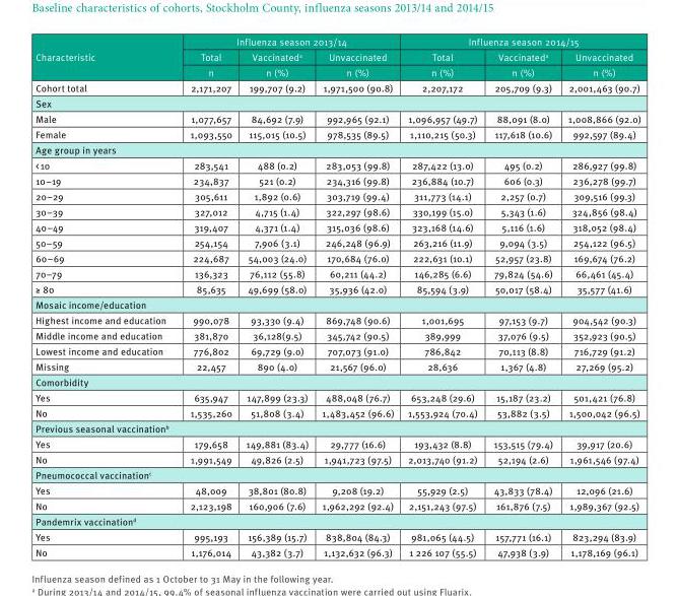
<table><thead><tr><td rowspan="3">Characteristic</td><td colspan="3">Influenza season 2013/14</td><td colspan="3">Influenza season 2014/15</td></tr><tr><td rowspan="2">Total n</td><td rowspan="2">Vaccinated<sup>a</sup> n (%)</td><td rowspan="2">Unvaccinated n (%)</td><td rowspan="2">Total n (%)</td><td rowspan="2">Vaccinated<sup>a</sup> n (%)</td><td rowspan="2">Unvaccinated n (%)</td></tr><tr></tr></thead><tbody><tr><td>Cohort total</td><td>2,171,207</td><td>199,707 (9.2)</td><td>1,971,500 (90.8)</td><td>2,207,172</td><td>205,709 (9.3)</td><td>2,001,463 (90.7)</td></tr><tr><td colspan="7">Sex</td></tr><tr><td>Male</td><td>1,077,657</td><td>84,692 (7.9)</td><td>992,965 (92.1)</td><td>1,096,957 (49.7)</td><td>88,091 (8.0)</td><td>1,008,866 (92.0)</td></tr><tr><td>Female</td><td>1,093,550</td><td>115,015 (10.5)</td><td>978,535 (89.5)</td><td>1,110,215 (50.3)</td><td>117,618 (10.6)</td><td>992,597 (89.4)</td></tr><tr><td colspan="7">Age group in years</td></tr><tr><td>&lt; 10</td><td>283,541</td><td>488 (0.2)</td><td>283,053 (99.8)</td><td>287,422 (13.0)</td><td>495 (0.2)</td><td>286,927 (99.8)</td></tr><tr><td>10–19</td><td>234,837</td><td>521 (0.2)</td><td>234,316 (99.8)</td><td>236,884 (10.7)</td><td>606 (0.3)</td><td>236,278 (99.7)</td></tr><tr><td>20–29</td><td>305,611</td><td>1,892 (0.6)</td><td>303,719 (99.4)</td><td>311,773 (14.1)</td><td>2,257 (0.7)</td><td>309,516 (99.3)</td></tr><tr><td>30–39</td><td>327,012</td><td>4,715 (1.4)</td><td>322,297 (98.6)</td><td>330,199 (15.0)</td><td>5,343 (1.6)</td><td>324,856 (98.4)</td></tr><tr><td>40–49</td><td>319,407</td><td>4,371 (1.4)</td><td>315,036 (98.6)</td><td>323,168 (14.6)</td><td>5,116 (1.6)</td><td>318,052 (98.4)</td></tr><tr><td>50–59</td><td>254,154</td><td>7,906 (3.1)</td><td>246,248 (96.9)</td><td>263,216 (11.9)</td><td>9,094 (3.5)</td><td>254,122 (96.5)</td></tr><tr><td>60–69</td><td>224,687</td><td>54,003 (24.0)</td><td>170,684 (76.0)</td><td>222,631 (10.1)</td><td>52,957 (23.8)</td><td>169,674 (76.2)</td></tr><tr><td>70–79</td><td>136,323</td><td>76,112 (55.8)</td><td>60,211 (44.2)</td><td>146,285 (6.6)</td><td>79,824 (54.6)</td><td>66,461 (45.4)</td></tr><tr><td>≥ 80</td><td>85,635</td><td>49,699 (58.0)</td><td>35,936 (42.0)</td><td>85,594 (3.9)</td><td>50,017 (58.4)</td><td>35,577 (41.6)</td></tr><tr><td colspan="7">Mosaic income/education</td></tr><tr><td>Highest income and education</td><td>990,078</td><td>93,330 (9.4)</td><td>869,748 (90.6)</td><td>1,001,695</td><td>97,153 (9.7)</td><td>904,542 (90.3)</td></tr><tr><td>Middle income and education</td><td>381,870</td><td>36,128(9.5)</td><td>345,742 (90.5)</td><td>389,999</td><td>37,076 (9.5)</td><td>352,923 (90.5)</td></tr><tr><td>Lowest income and education</td><td>776,802</td><td>69,729 (9.0)</td><td>707,073 (91.0)</td><td>786,842</td><td>70,113 (8.8)</td><td>716,729 (91.2)</td></tr><tr><td>Missing</td><td>22,457</td><td>890 (4.0)</td><td>21,567 (96.0)</td><td>28,636</td><td>1,367 (4.8)</td><td>27,269 (95.2)</td></tr><tr><td colspan="7">Comorbidity</td></tr><tr><td>Yes</td><td>635,947</td><td>147,899 (23.3)</td><td>488,048 (76.7)</td><td>653,248 (29.6)</td><td>15,187 (23.2)</td><td>501,421 (76.8)</td></tr><tr><td>No</td><td>1,535,260</td><td>51,808 (3.4)</td><td>1,483,452 (96.6)</td><td>1,553,924 (70.4)</td><td>53,882 (3.5)</td><td>1,500,042 (96.5)</td></tr><tr><td colspan="7">Previous seasonal vaccination<sup>b</sup></td></tr><tr><td>Yes</td><td>179,658</td><td>149,881 (83.4)</td><td>29,777 (16.6)</td><td>193,432 (8.8)</td><td>153,515 (79.4)</td><td>39,917 (20.6)</td></tr><tr><td>No</td><td>1,991,549</td><td>49,826 (2.5)</td><td>1,941,723 (97.5)</td><td>2,013,740 (91.2)</td><td>52,194 (2.6)</td><td>1,961,546 (97.4)</td></tr><tr><td colspan="7">Pneumococcal vaccination<sup>c</sup></td></tr><tr><td>Yes</td><td>48,009</td><td>38,801 (80.8)</td><td>9,208 (19.2)</td><td>55,929 (2.5)</td><td>43,833 (78.4)</td><td>12,096 (21.6)</td></tr><tr><td>No</td><td>2,123,198</td><td>160,906 (7.6)</td><td>1,962,292 (92.4)</td><td>2,151,243 (97.5)</td><td>161,876 (7.5)</td><td>1,989,367 (92.5)</td></tr><tr><td colspan="7">Pandemrix vaccination<sup>d</sup></td></tr><tr><td>Yes</td><td>995,193</td><td>156,389 (15.7)</td><td>838,804 (84.3)</td><td>981,065 (44.5)</td><td>157,771 (16.1)</td><td>823,294 (83.9)</td></tr><tr><td>No</td><td>1,176,014</td><td>43,382 (3.7)</td><td>1,132,632 (96.3)</td><td>1 226 107 (55.5)</td><td>47,938 (3.9)</td><td>1,178,169 (96.1)</td></tr></tbody></table>